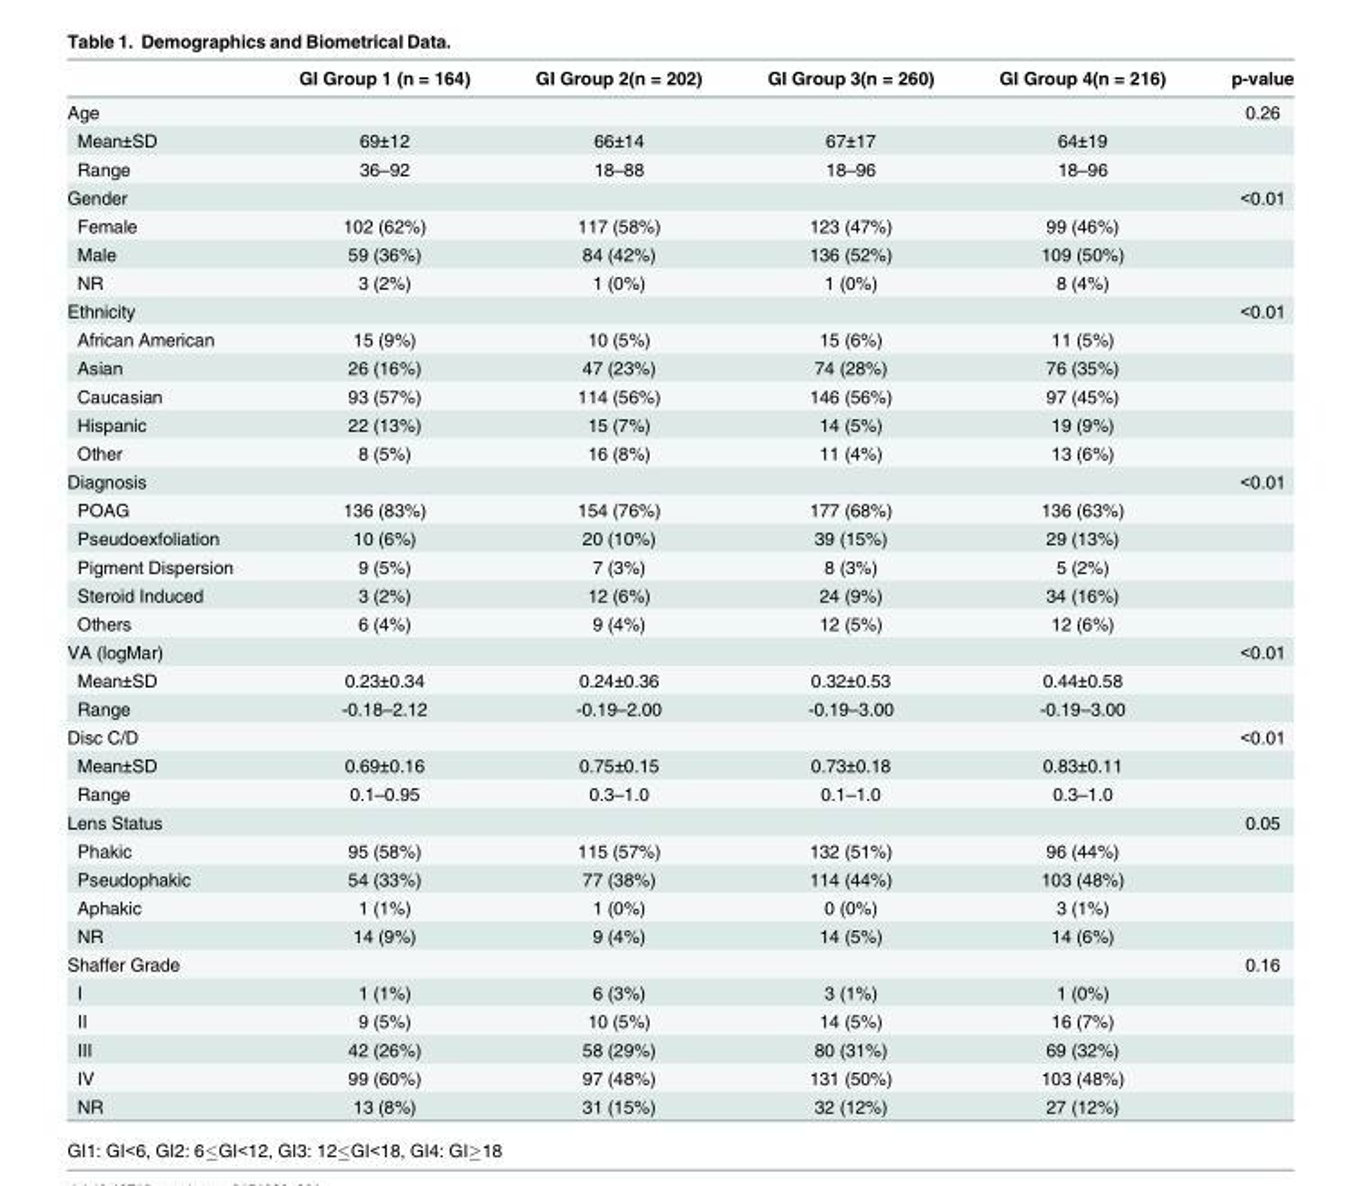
<table><thead><tr><td></td><td>GI Group 1 (n = 164)</td><td>GI Group 2(n = 202)</td><td>GI Group 3(n = 260)</td><td>GI Group 4(n = 216)</td><td>p-value</td></tr></thead><tbody><tr><td>Age</td><td></td><td></td><td></td><td></td><td>0.26</td></tr><tr><td>Mean±SD</td><td>69±12</td><td>66±14</td><td>67±17</td><td>64±19</td><td></td></tr><tr><td>Range</td><td>36–92</td><td>18–88</td><td>18–96</td><td>18–96</td><td></td></tr><tr><td>Gender</td><td></td><td></td><td></td><td></td><td>&lt;0.01</td></tr><tr><td>Female</td><td>102 (62%)</td><td>117 (58%)</td><td>123 (47%)</td><td>99 (46%)</td><td></td></tr><tr><td>Male</td><td>59 (36%)</td><td>84 (42%)</td><td>136 (52%)</td><td>109 (50%)</td><td></td></tr><tr><td>NR</td><td>3 (2%)</td><td>1 (0%)</td><td>1 (0%)</td><td>8 (4%)</td><td></td></tr><tr><td>Ethnicity</td><td></td><td></td><td></td><td></td><td>&lt;0.01</td></tr><tr><td>African American</td><td>15 (9%)</td><td>10 (5%)</td><td>15 (6%)</td><td>11 (5%)</td><td></td></tr><tr><td>Asian</td><td>26 (16%)</td><td>47 (23%)</td><td>74 (28%)</td><td>76 (35%)</td><td></td></tr><tr><td>Caucasian</td><td>93 (57%)</td><td>114 (56%)</td><td>146 (56%)</td><td>97 (45%)</td><td></td></tr><tr><td>Hispanic</td><td>22 (13%)</td><td>15 (7%)</td><td>14 (5%)</td><td>19 (9%)</td><td></td></tr><tr><td>Other</td><td>8 (5%)</td><td>16 (8%)</td><td>11 (4%)</td><td>13 (6%)</td><td></td></tr><tr><td>Diagnosis</td><td></td><td></td><td></td><td></td><td>&lt;0.01</td></tr><tr><td>POAG</td><td>136 (83%)</td><td>154 (76%)</td><td>177 (68%)</td><td>136 (63%)</td><td></td></tr><tr><td>Pseudoexfoliation</td><td>10 (6%)</td><td>20 (10%)</td><td>39 (15%)</td><td>29 (13%)</td><td></td></tr><tr><td>Pigment Dispersion</td><td>9 (5%)</td><td>7 (3%)</td><td>8 (3%)</td><td>5 (2%)</td><td></td></tr><tr><td>Steroid Induced</td><td>3 (2%)</td><td>12 (6%)</td><td>24 (9%)</td><td>34 (16%)</td><td></td></tr><tr><td>Others</td><td>6 (4%)</td><td>9 (4%)</td><td>12 (5%)</td><td>12 (6%)</td><td></td></tr><tr><td>VA (logMar)</td><td></td><td></td><td></td><td></td><td>&lt;0.01</td></tr><tr><td>Mean±SD</td><td>0.23±0.34</td><td>0.24±0.36</td><td>0.32±0.53</td><td>0.44±0.58</td><td></td></tr><tr><td>Range</td><td>-0.18–2.12</td><td>-0.19–2.00</td><td>-0.19–3.00</td><td>-0.19–3.00</td><td></td></tr><tr><td>Disc C/D</td><td></td><td></td><td></td><td></td><td>&lt;0.01</td></tr><tr><td>Mean±SD</td><td>0.69±0.16</td><td>0.75±0.15</td><td>0.73±0.18</td><td>0.83±0.11</td><td></td></tr><tr><td>Range</td><td>0.1–0.95</td><td>0.3–1.0</td><td>0.1–1.0</td><td>0.3–1.0</td><td></td></tr><tr><td>Lens Status</td><td></td><td></td><td></td><td></td><td>0.05</td></tr><tr><td>Phakic</td><td>95 (58%)</td><td>115 (57%)</td><td>132 (51%)</td><td>96 (44%)</td><td></td></tr><tr><td>Pseudophakic</td><td>54 (33%)</td><td>77 (38%)</td><td>114 (44%)</td><td>103 (48%)</td><td></td></tr><tr><td>Aphakic</td><td>1 (1%)</td><td>1 (0%)</td><td>0 (0%)</td><td>3 (1%)</td><td></td></tr><tr><td>NR</td><td>14 (9%)</td><td>9 (4%)</td><td>14 (5%)</td><td>14 (6%)</td><td></td></tr><tr><td>Shaffer Grade</td><td></td><td></td><td></td><td></td><td>0.16</td></tr><tr><td>I</td><td>1 (1%)</td><td>6 (3%)</td><td>3 (1%)</td><td>1 (0%)</td><td></td></tr><tr><td>II</td><td>9 (5%)</td><td>10 (5%)</td><td>14 (5%)</td><td>16 (7%)</td><td></td></tr><tr><td>III</td><td>42 (26%)</td><td>58 (29%)</td><td>80 (31%)</td><td>69 (32%)</td><td></td></tr><tr><td>IV</td><td>99 (60%)</td><td>97 (48%)</td><td>131 (50%)</td><td>103 (48%)</td><td></td></tr><tr><td>NR</td><td>13 (8%)</td><td>31 (15%)</td><td>32 (12%)</td><td>27 (12%)</td><td></td></tr></tbody></table>